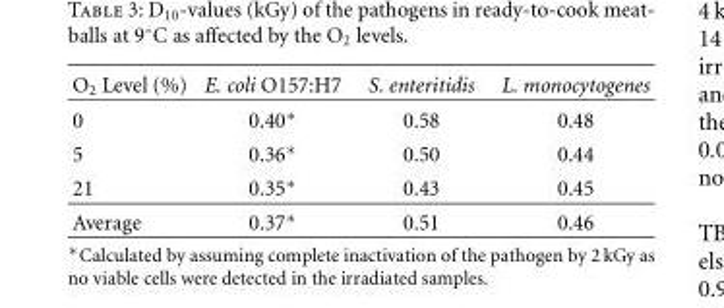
<table><thead><tr><td>O<sub>2</sub> Level (%)</td><td>E. coli O157:H7</td><td>S. enteritidis</td><td>L. monocytogenes</td></tr></thead><tbody><tr><td>0</td><td>0.40∗</td><td>0.58</td><td>0.48</td></tr><tr><td>5</td><td>0.36∗</td><td>0.50</td><td>0.44</td></tr><tr><td>21</td><td>0.35∗</td><td>0.43</td><td>0.45</td></tr><tr><td>Average</td><td>0.37∗</td><td>0.51</td><td>0.46</td></tr></tbody></table>